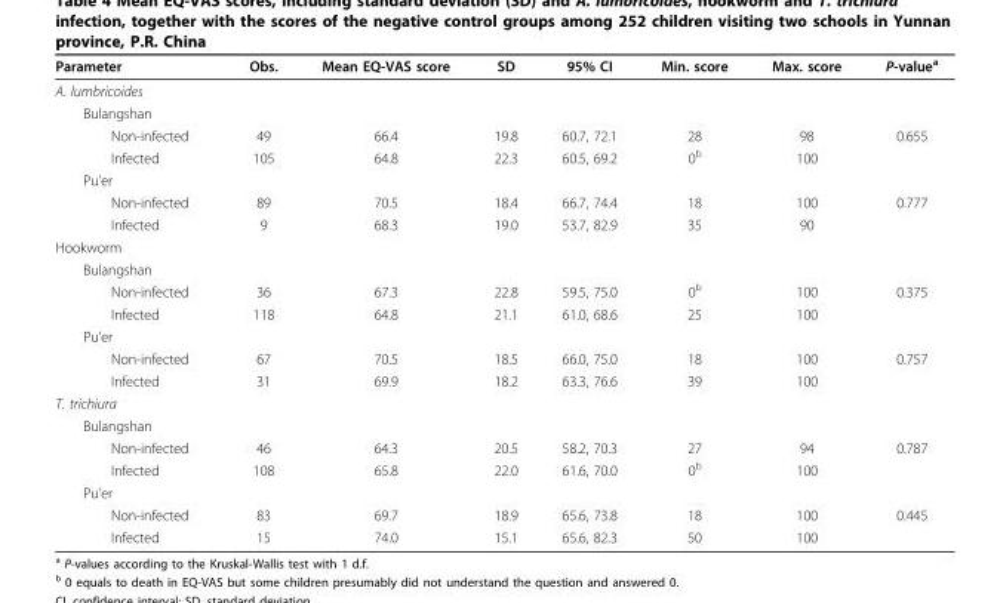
<table><thead><tr><td>Parameter</td><td>Obs.</td><td>Mean EQ-VAS score</td><td>SD</td><td>95% CI</td><td>Min. score</td><td>Max. score</td><td>P-value<sup>a</sup></td></tr></thead><tbody><tr><td colspan="8">A. lumbricoides</td></tr><tr><td colspan="8">Bulangshan</td></tr><tr><td>Non-infected</td><td>49</td><td>66.4</td><td>19.8</td><td>60.7, 72.1</td><td>28</td><td>98</td><td>0.655</td></tr><tr><td>Infected</td><td>105</td><td>64.8</td><td>22.3</td><td>60.5, 69.2</td><td>0<sup>b</sup></td><td>100</td><td></td></tr><tr><td colspan="8">Pu’er</td></tr><tr><td>Non-infected</td><td>89</td><td>70.5</td><td>18.4</td><td>66.7, 74.4</td><td>18</td><td>100</td><td>0.777</td></tr><tr><td>Infected</td><td>9</td><td>68.3</td><td>19.0</td><td>53.7, 82.9</td><td>35</td><td>90</td><td></td></tr><tr><td colspan="8">Hookworm</td></tr><tr><td colspan="8">Bulangshan</td></tr><tr><td>Non-infected</td><td>36</td><td>67.3</td><td>22.8</td><td>59.5, 75.0</td><td>0<sup>b</sup></td><td>100</td><td>0.375</td></tr><tr><td>Infected</td><td>118</td><td>64.8</td><td>21.1</td><td>61.0, 68.6</td><td>25</td><td>100</td><td></td></tr><tr><td colspan="8">Pu’er</td></tr><tr><td>Non-infected</td><td>67</td><td>70.5</td><td>18.5</td><td>66.0, 75.0</td><td>18</td><td>100</td><td>0.757</td></tr><tr><td>Infected</td><td>31</td><td>69.9</td><td>18.2</td><td>63.3, 76.6</td><td>39</td><td>100</td><td></td></tr><tr><td colspan="8">T. trichiura</td></tr><tr><td colspan="8">Bulangshan</td></tr><tr><td>Non-infected</td><td>46</td><td>64.3</td><td>20.5</td><td>58.2, 70.3</td><td>27</td><td>94</td><td>0.787</td></tr><tr><td>Infected</td><td>108</td><td>65.8</td><td>22.0</td><td>61.6, 70.0</td><td>0<sup>b</sup></td><td>100</td><td></td></tr><tr><td colspan="8">Pu’er</td></tr><tr><td>Non-infected</td><td>83</td><td>69.7</td><td>18.9</td><td>65.6, 73.8</td><td>18</td><td>100</td><td>0.445</td></tr><tr><td>Infected</td><td>15</td><td>74.0</td><td>15.1</td><td>65.6, 82.3</td><td>50</td><td>100</td><td></td></tr></tbody></table>